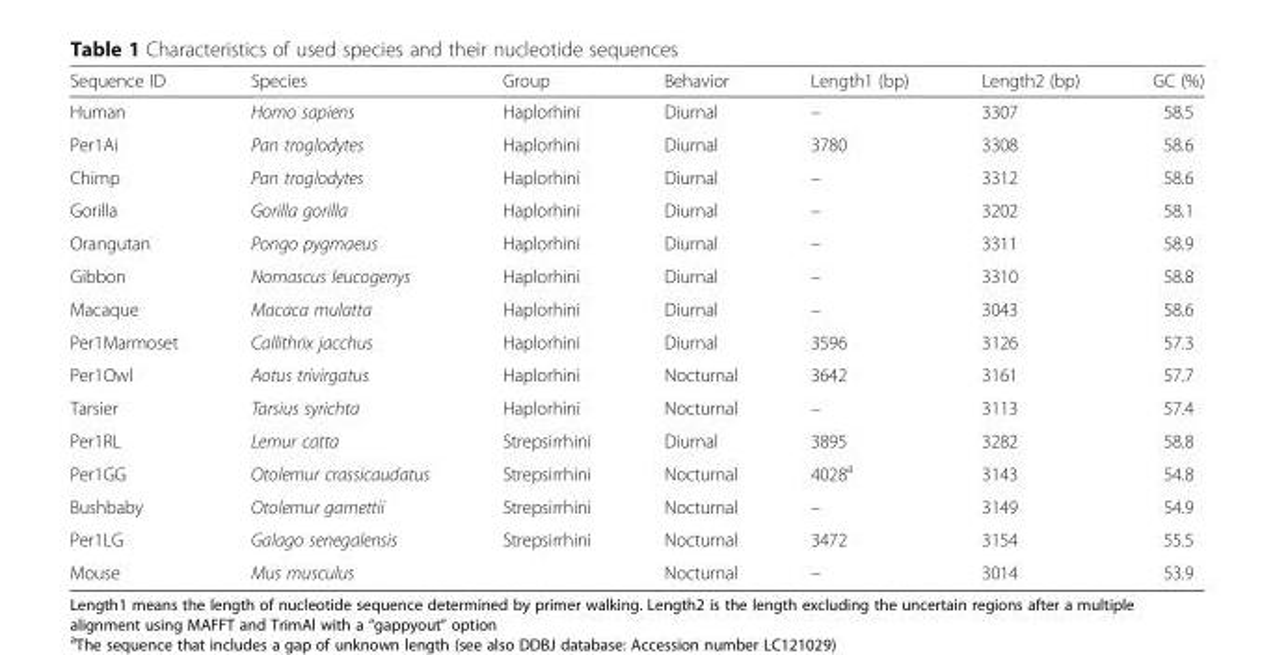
<table><thead><tr><td>Sequence ID</td><td>Species</td><td>Group</td><td>Behavior</td><td>Length1 (bp)</td><td>Length2 (bp)</td><td>GC (%)</td></tr></thead><tbody><tr><td>Human</td><td>Homo sapiens</td><td>Haplorhini</td><td>Diurnal</td><td>–</td><td>3307</td><td>58.5</td></tr><tr><td>Per1Ai</td><td>Pan troglodytes</td><td>Haplorhini</td><td>Diurnal</td><td>3780</td><td>3308</td><td>58.6</td></tr><tr><td>Chimp</td><td>Pan troglodytes</td><td>Haplorhini</td><td>Diurnal</td><td>–</td><td>3312</td><td>58.6</td></tr><tr><td>Gorilla</td><td>Gorilla gorilla</td><td>Haplorhini</td><td>Diurnal</td><td>–</td><td>3202</td><td>58.1</td></tr><tr><td>Orangutan</td><td>Pongo pygmaeus</td><td>Haplorhini</td><td>Diurnal</td><td>–</td><td>3311</td><td>58.9</td></tr><tr><td>Gibbon</td><td>Nomascus leucogenys</td><td>Haplorhini</td><td>Diurnal</td><td>–</td><td>3310</td><td>58.8</td></tr><tr><td>Macaque</td><td>Macaca mulatta</td><td>Haplorhini</td><td>Diurnal</td><td>–</td><td>3043</td><td>58.6</td></tr><tr><td>Per1Marmoset</td><td>Callithrix jacchus</td><td>Haplorhini</td><td>Diurnal</td><td>3596</td><td>3126</td><td>57.3</td></tr><tr><td>Per1Owl</td><td>Aotus trivirgatus</td><td>Haplorhini</td><td>Nocturnal</td><td>3642</td><td>3161</td><td>57.7</td></tr><tr><td>Tarsier</td><td>Tarsius syrichta</td><td>Haplorhini</td><td>Nocturnal</td><td>–</td><td>3113</td><td>57.4</td></tr><tr><td>Per1RL</td><td>Lemur catta</td><td>Strepsirrhini</td><td>Diurnal</td><td>3895</td><td>3282</td><td>58.8</td></tr><tr><td>Per1GG</td><td>Otolemur crassicaudatus</td><td>Strepsirrhini</td><td>Nocturnal</td><td>4028<sup>a</sup></td><td>3143</td><td>54.8</td></tr><tr><td>Bushbaby</td><td>Otolemur garnettii</td><td>Strepsirrhini</td><td>Nocturnal</td><td>–</td><td>3149</td><td>54.9</td></tr><tr><td>Per1LG</td><td>Galago senegalensis</td><td>Strepsirrhini</td><td>Nocturnal</td><td>3472</td><td>3154</td><td>55.5</td></tr><tr><td>Mouse</td><td>Mus musculus</td><td></td><td>Nocturnal</td><td>–</td><td>3014</td><td>53.9</td></tr></tbody></table>